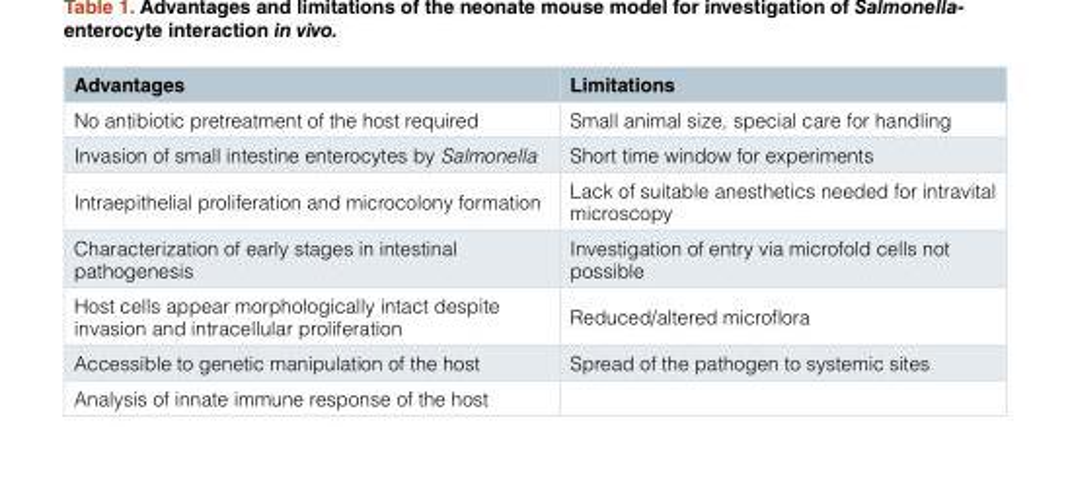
<table><thead><tr><td>Advantages</td><td>Limitations</td></tr></thead><tbody><tr><td>No antibiotic pretreatment of the host required</td><td>Small animal size, special care for handling</td></tr><tr><td>Invasion of small intestine enterocytes by Salmonella</td><td>Short time window for experiments</td></tr><tr><td>Intraepithelial proliferation and microcolony formation</td><td>Lack of suitable anesthetics needed for intravital microscopy</td></tr><tr><td>Characterization of early stages in intestinal pathogenesis</td><td>Investigation of entry via microfold cells not possible</td></tr><tr><td>Host cells appear morphologically intact despite invasion and intracellular proliferation</td><td>Reduced/altered microflora</td></tr><tr><td>Accessible to genetic manipulation of the host</td><td>Spread of the pathogen to systemic sites</td></tr><tr><td>Analysis of innate immune response of the host</td><td></td></tr></tbody></table>